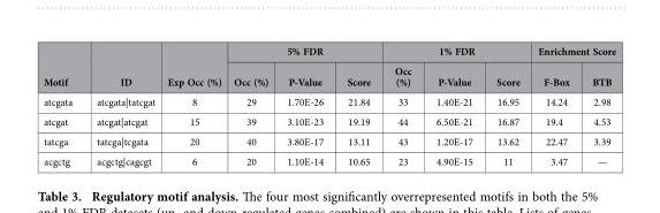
<table><thead><tr><td rowspan="2">Motif</td><td rowspan="2">ID</td><td rowspan="2">Exp Occ (%)</td><td colspan="3">5% FDR</td><td colspan="3">1% FDR</td><td colspan="2">Enrichment Score</td></tr><tr><td>Occ (%)</td><td>P-Value</td><td>Score</td><td>Occ (%)</td><td>P-Value</td><td>Score</td><td>F-Box</td><td>BTB</td></tr></thead><tbody><tr><td>atcgata</td><td>atcgata|tatcgat</td><td>8</td><td>29</td><td>1.70E-26</td><td>21.84</td><td>33</td><td>1.40E-21</td><td>16.95</td><td>14.24</td><td>2.98</td></tr><tr><td>atcgat</td><td>atcgat|atcgat</td><td>15</td><td>39</td><td>3.10E-23</td><td>19.19</td><td>44</td><td>6.50E-21</td><td>16.87</td><td>19.4</td><td>4.53</td></tr><tr><td>tatcga</td><td>tatcga|tcgata</td><td>20</td><td>40</td><td>3.80E-17</td><td>13.11</td><td>43</td><td>1.20E-17</td><td>13.62</td><td>22.47</td><td>3.39</td></tr><tr><td>acgctg</td><td>acgctg|cagcgt</td><td>6</td><td>20</td><td>1.10E-14</td><td>10.65</td><td>23</td><td>4.90E-15</td><td>11</td><td>3.47</td><td>—</td></tr></tbody></table>